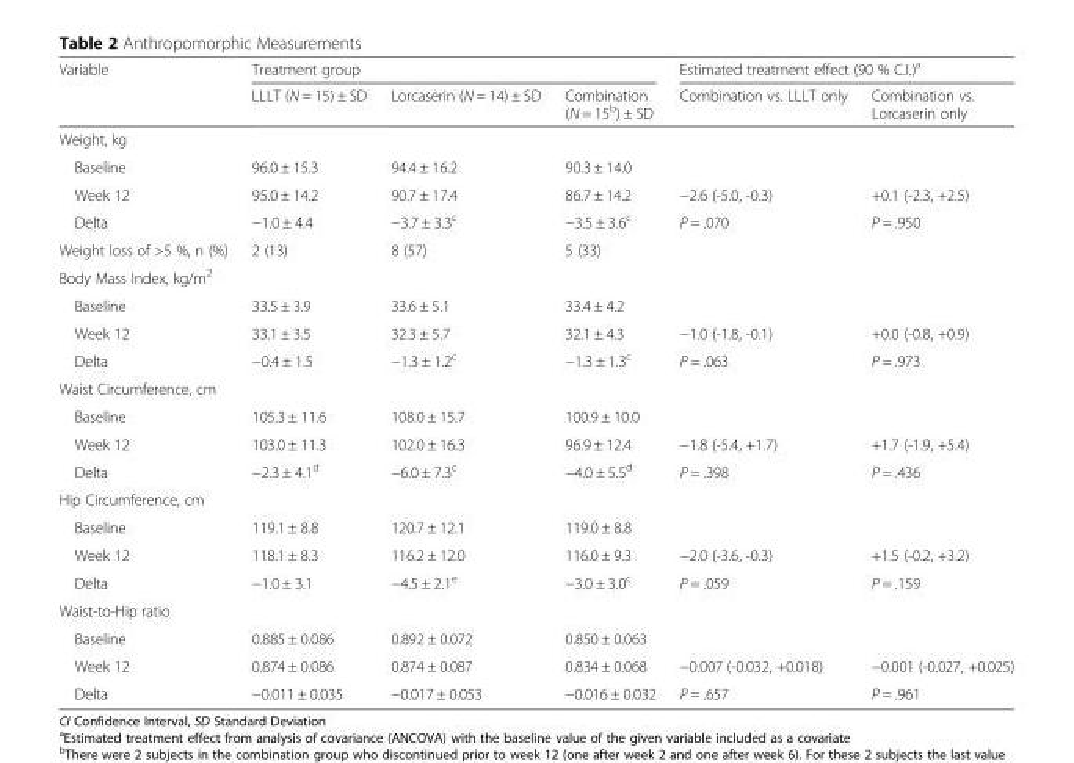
<table><thead><tr><td rowspan="2">Variable</td><td colspan="3">Treatment group</td><td colspan="2">Estimated treatment effect (90 % C.I.)<sup>a</sup></td></tr><tr><td>LLLT (N = 15) ± SD</td><td>Lorcaserin (N = 14) ± SD</td><td>Combination (N = 15<sup>b</sup>) ± SD</td><td>Combination vs. LLLT only</td><td>Combination vs. Lorcaserin only</td></tr></thead><tbody><tr><td colspan="6">Weight, kg</td></tr><tr><td>Baseline</td><td>96.0 ± 15.3</td><td>94.4 ± 16.2</td><td>90.3 ± 14.0</td><td></td><td></td></tr><tr><td>Week 12</td><td>95.0 ± 14.2</td><td>90.7 ± 17.4</td><td>86.7 ± 14.2</td><td>−2.6 (-5.0, -0.3)</td><td>+0.1 (-2.3, +2.5)</td></tr><tr><td>Delta</td><td>−1.0 ± 4.4</td><td>−3.7 ± 3.3<sup>c</sup></td><td>−3.5 ± 3.6<sup>c</sup></td><td>P = .070</td><td>P = .950</td></tr><tr><td>Weight loss of &gt;5 %, n (%)</td><td>2 (13)</td><td>8 (57)</td><td>5 (33)</td><td></td><td></td></tr><tr><td colspan="6">Body Mass Index, kg/m<sup>2</sup></td></tr><tr><td>Baseline</td><td>33.5 ± 3.9</td><td>33.6 ± 5.1</td><td>33.4 ± 4.2</td><td></td><td></td></tr><tr><td>Week 12</td><td>33.1 ± 3.5</td><td>32.3 ± 5.7</td><td>32.1 ± 4.3</td><td>−1.0 (-1.8, -0.1)</td><td>+0.0 (-0.8, +0.9)</td></tr><tr><td>Delta</td><td>−0.4 ± 1.5</td><td>−1.3 ± 1.2<sup>c</sup></td><td>−1.3 ± 1.3<sup>c</sup></td><td>P = .063</td><td>P = .973</td></tr><tr><td colspan="6">Waist Circumference, cm</td></tr><tr><td>Baseline</td><td>105.3 ± 11.6</td><td>108.0 ± 15.7</td><td>100.9 ± 10.0</td><td></td><td></td></tr><tr><td>Week 12</td><td>103.0 ± 11.3</td><td>102.0 ± 16.3</td><td>96.9 ± 12.4</td><td>−1.8 (-5.4, +1.7)</td><td>+1.7 (-1.9, +5.4)</td></tr><tr><td>Delta</td><td>−2.3 ± 4.1<sup>d</sup></td><td>−6.0 ± 7.3<sup>c</sup></td><td>−4.0 ± 5.5<sup>d</sup></td><td>P = .398</td><td>P = .436</td></tr><tr><td colspan="6">Hip Circumference, cm</td></tr><tr><td>Baseline</td><td>119.1 ± 8.8</td><td>120.7 ± 12.1</td><td>119.0 ± 8.8</td><td></td><td></td></tr><tr><td>Week 12</td><td>118.1 ± 8.3</td><td>116.2 ± 12.0</td><td>116.0 ± 9.3</td><td>−2.0 (-3.6, -0.3)</td><td>+1.5 (-0.2, +3.2)</td></tr><tr><td>Delta</td><td>−1.0 ± 3.1</td><td>−4.5 ± 2.1<sup>e</sup></td><td>−3.0 ± 3.0<sup>c</sup></td><td>P = .059</td><td>P = .159</td></tr><tr><td colspan="6">Waist-to-Hip ratio</td></tr><tr><td>Baseline</td><td>0.885 ± 0.086</td><td>0.892 ± 0.072</td><td>0.850 ± 0.063</td><td></td><td></td></tr><tr><td>Week 12</td><td>0.874 ± 0.086</td><td>0.874 ± 0.087</td><td>0.834 ± 0.068</td><td>−0.007 (-0.032, +0.018)</td><td>−0.001 (-0.027, +0.025)</td></tr><tr><td>Delta</td><td>−0.011 ± 0.035</td><td>−0.017 ± 0.053</td><td>−0.016 ± 0.032</td><td>P = .657</td><td>P = .961</td></tr></tbody></table>